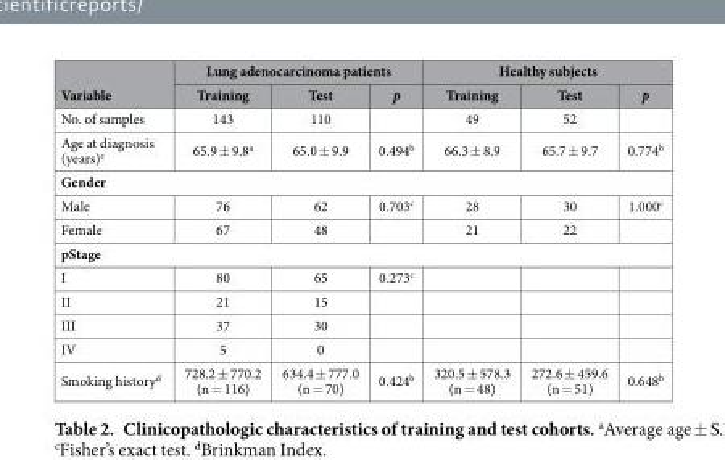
<table><thead><tr><td rowspan="2">Variable</td><td colspan="3">Lung adenocarcinoma patients</td><td colspan="3">Healthy subjects</td></tr><tr><td>Training</td><td>Test</td><td>p</td><td>Training</td><td>Test</td><td>p</td></tr></thead><tbody><tr><td>No. of samples</td><td>143</td><td>110</td><td></td><td>49</td><td>52</td><td></td></tr><tr><td>Age at diagnosis (years)<sup>c</sup></td><td>65.9 ± 9.8<sup>a</sup></td><td>65.0 ± 9.9</td><td>0.494<sup>b</sup></td><td>66.3 ± 8.9</td><td>65.7 ± 9.7</td><td>0.774<sup>b</sup></td></tr><tr><td colspan="7">Gender</td></tr><tr><td>Male</td><td>76</td><td>62</td><td>0.703<sup>c</sup></td><td>28</td><td>30</td><td>1.000<sup>c</sup></td></tr><tr><td>Female</td><td>67</td><td>48</td><td></td><td>21</td><td>22</td><td></td></tr><tr><td colspan="7">pStage</td></tr><tr><td>I</td><td>80</td><td>65</td><td>0.273<sup>c</sup></td><td></td><td></td><td></td></tr><tr><td>II</td><td>21</td><td>15</td><td></td><td></td><td></td><td></td></tr><tr><td>III</td><td>37</td><td>30</td><td></td><td></td><td></td><td></td></tr><tr><td>IV</td><td>5</td><td>0</td><td></td><td></td><td></td><td></td></tr><tr><td>Smoking history<sup>d</sup></td><td>728.2 ± 770.2 (n = 116)</td><td>634.4 ± 777.0 (n = 70)</td><td>0.424<sup>b</sup></td><td>320.5 ± 578.3 (n = 48)</td><td>272.6 ± 459.6 (n = 51)</td><td>0.648<sup>b</sup></td></tr></tbody></table>